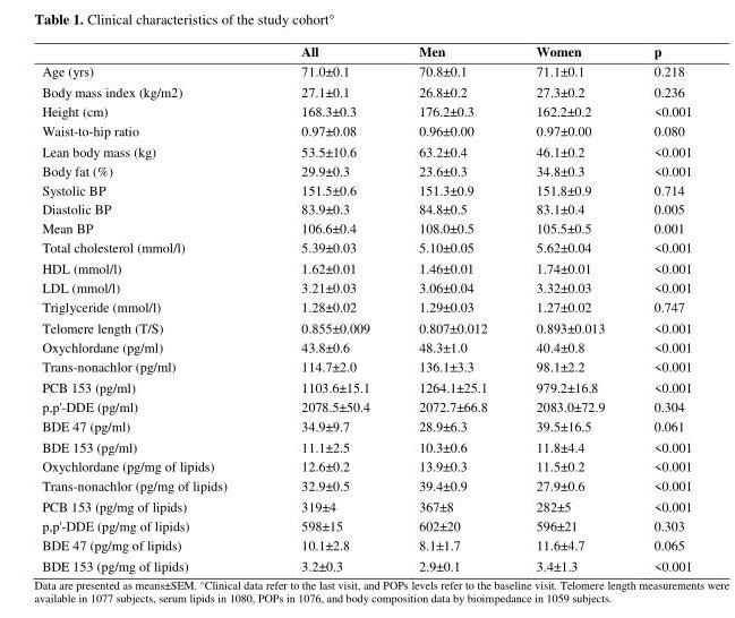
<table><thead><tr><td></td><td>All</td><td>Men</td><td>Women</td><td>p</td></tr></thead><tbody><tr><td>Age (yrs)</td><td>71.0±0.1</td><td>70.8±0.1</td><td>71.1±0.1</td><td>0.218</td></tr><tr><td>Body mass index (kg/m2)</td><td>27.1±0.1</td><td>26.8±0.2</td><td>27.3±0.2</td><td>0.236</td></tr><tr><td>Height (cm)</td><td>168.3±0.3</td><td>176.2±0.3</td><td>162.2±0.2</td><td>&lt;0.001</td></tr><tr><td>Waist-to-hip ratio</td><td>0.97±0.08</td><td>0.96±0.00</td><td>0.97±0.00</td><td>0.080</td></tr><tr><td>Lean body mass (kg)</td><td>53.5±10.6</td><td>63.2±0.4</td><td>46.1±0.2</td><td>&lt;0.001</td></tr><tr><td>Body fat (%)</td><td>29.9±0.3</td><td>23.6±0.3</td><td>34.8±0.3</td><td>&lt;0.001</td></tr><tr><td>Systolic BP</td><td>151.5±0.6</td><td>151.3±0.9</td><td>151.8±0.9</td><td>0.714</td></tr><tr><td>Diastolic BP</td><td>83.9±0.3</td><td>84.8±0.5</td><td>83.1±0.4</td><td>0.005</td></tr><tr><td>Mean BP</td><td>106.6±0.4</td><td>108.0±0.5</td><td>105.5±0.5</td><td>0.001</td></tr><tr><td>Total cholesterol (mmol/l)</td><td>5.39±0.03</td><td>5.10±0.05</td><td>5.62±0.04</td><td>&lt;0.001</td></tr><tr><td>HDL (mmol/l)</td><td>1.62±0.01</td><td>1.46±0.01</td><td>1.74±0.01</td><td>&lt;0.001</td></tr><tr><td>LDL (mmol/l)</td><td>3.21±0.03</td><td>3.06±0.04</td><td>3.32±0.03</td><td>&lt;0.001</td></tr><tr><td>Triglyceride (mmol/l)</td><td>1.28±0.02</td><td>1.29±0.03</td><td>1.27±0.02</td><td>0.747</td></tr><tr><td>Telomere length (T/S)</td><td>0.855±0.009</td><td>0.807±0.012</td><td>0.893±0.013</td><td>&lt;0.001</td></tr><tr><td>Oxychlordane (pg/ml)</td><td>43.8±0.6</td><td>48.3±1.0</td><td>40.4±0.8</td><td>&lt;0.001</td></tr><tr><td>Trans-nonachlor (pg/ml)</td><td>114.7±2.0</td><td>136.1±3.3</td><td>98.1±2.2</td><td>&lt;0.001</td></tr><tr><td>PCB 153 (pg/ml)</td><td>1103.6±15.1</td><td>1264.1±25.1</td><td>979.2±16.8</td><td>&lt;0.001</td></tr><tr><td>p,p&#x27;-DDE (pg/ml)</td><td>2078.5±50.4</td><td>2072.7±66.8</td><td>2083.0±72.9</td><td>0.304</td></tr><tr><td>BDE 47 (pg/ml)</td><td>34.9±9.7</td><td>28.9±6.3</td><td>39.5±16.5</td><td>0.061</td></tr><tr><td>BDE 153 (pg/ml)</td><td>11.1±2.5</td><td>10.3±0.6</td><td>11.8±4.4</td><td>&lt;0.001</td></tr><tr><td>Oxychlordane (pg/mg of lipids)</td><td>12.6±0.2</td><td>13.9±0.3</td><td>11.5±0.2</td><td>&lt;0.001</td></tr><tr><td>Trans-nonachlor (pg/mg of lipids)</td><td>32.9±0.5</td><td>39.4±0.9</td><td>27.9±0.6</td><td>&lt;0.001</td></tr><tr><td>PCB 153 (pg/mg of lipids)</td><td>319±4</td><td>367±8</td><td>282±5</td><td>&lt;0.001</td></tr><tr><td>p,p&#x27;-DDE (pg/mg of lipids)</td><td>598±15</td><td>602±20</td><td>596±21</td><td>0.303</td></tr><tr><td>BDE 47 (pg/mg of lipids)</td><td>10.1±2.8</td><td>8.1±1.7</td><td>11.6±4.7</td><td>0.065</td></tr><tr><td>BDE 153 (pg/mg of lipids)</td><td>3.2±0.3</td><td>2.9±0.1</td><td>3.4±1.3</td><td>&lt;0.001</td></tr></tbody></table>